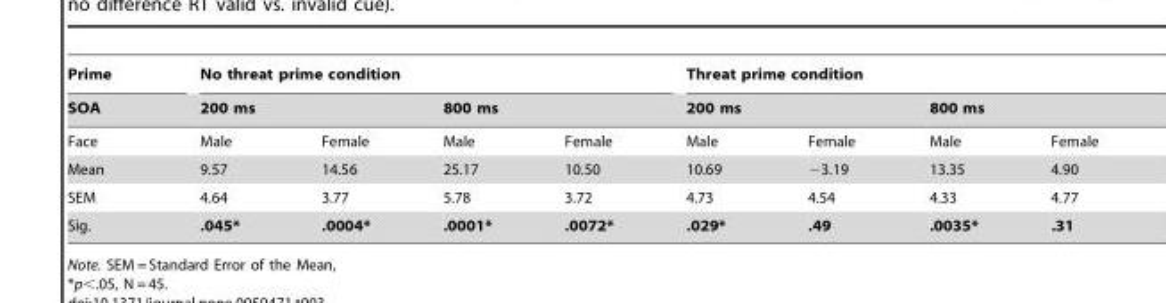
<table><thead><tr><td rowspan="3">Prime SOA Face</td><td colspan="4">No threat prime condition</td><td colspan="4">Threat prime condition</td></tr><tr><td colspan="2">200 ms</td><td colspan="2">800 ms</td><td colspan="2">200 ms</td><td colspan="2">800 ms</td></tr><tr><td>Male</td><td>Female</td><td>Male</td><td>Female</td><td>Male</td><td>Female</td><td>Male</td><td>Female</td></tr></thead><tbody><tr><td>Mean</td><td>9.57</td><td>14.56</td><td>25.17</td><td>10.50</td><td>10.69</td><td>−3.19</td><td>13.35</td><td>4.90</td></tr><tr><td>SEM</td><td>4.64</td><td>3.77</td><td>5.78</td><td>3.72</td><td>4.73</td><td>4.54</td><td>4.33</td><td>4.77</td></tr><tr><td>Sig.</td><td>.045*</td><td>.0004*</td><td>.0001*</td><td>.0072*</td><td>.029*</td><td>.49</td><td>.0035*</td><td>.31</td></tr></tbody></table>